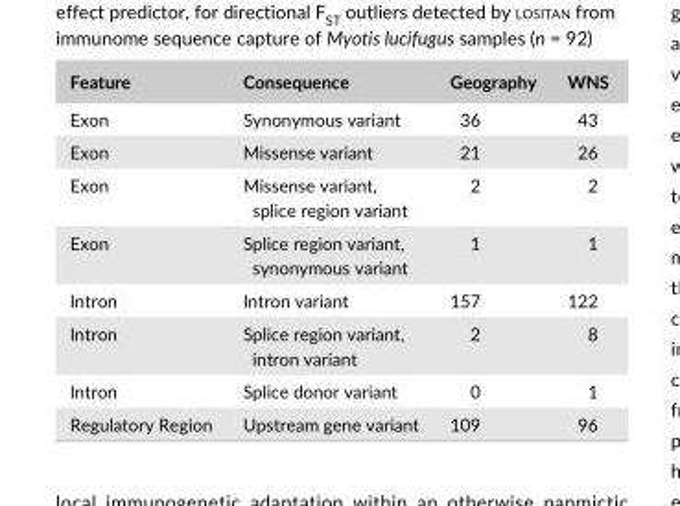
<table><thead><tr><td>Feature</td><td>Consequence</td><td>Geography</td><td>WNS</td></tr></thead><tbody><tr><td>Exon</td><td>Synonymous variant</td><td>36</td><td>43</td></tr><tr><td>Exon</td><td>Missense variant</td><td>21</td><td>26</td></tr><tr><td>Exon</td><td>Missense variant, splice region variant</td><td>2</td><td>2</td></tr><tr><td>Exon</td><td>Splice region variant, synonymous variant</td><td>1</td><td>1</td></tr><tr><td>Intron</td><td>Intron variant</td><td>157</td><td>122</td></tr><tr><td>Intron</td><td>Splice region variant, intron variant</td><td>2</td><td>8</td></tr><tr><td>Intron</td><td>Splice donor variant</td><td>0</td><td>1</td></tr><tr><td>Regulatory Region</td><td>Upstream gene variant</td><td>109</td><td>96</td></tr></tbody></table>